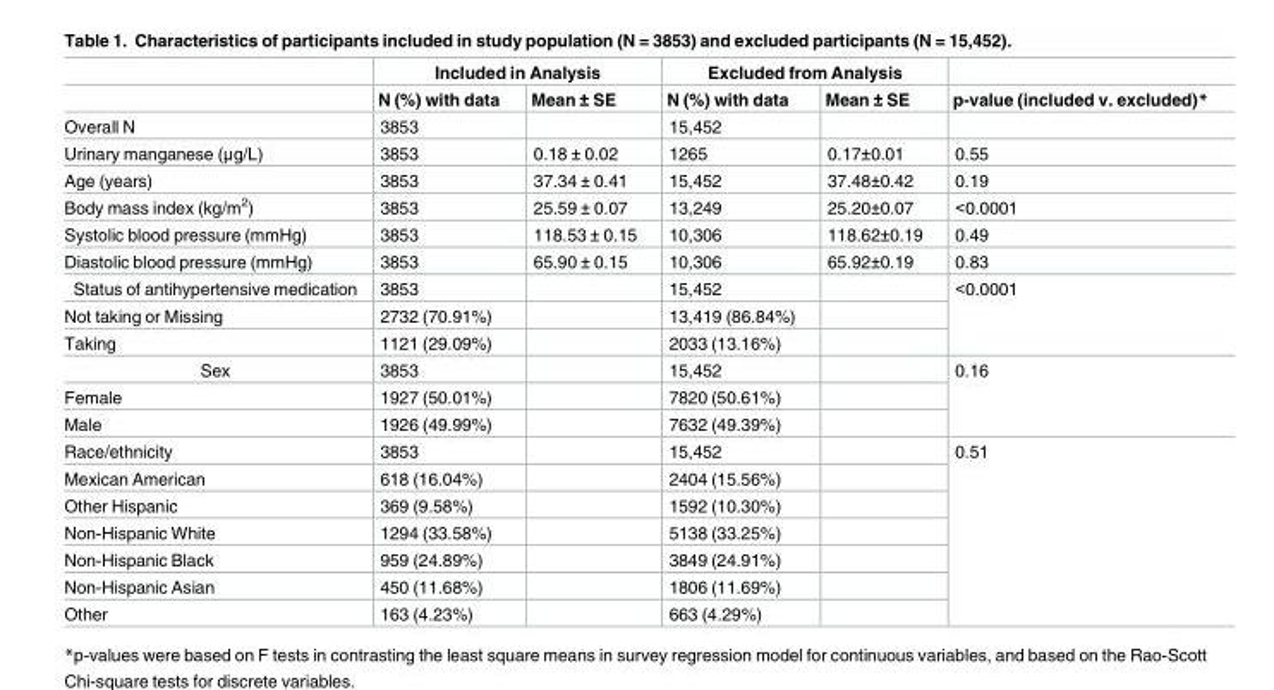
<table><thead><tr><td rowspan="2"></td><td colspan="2">Included in Analysis</td><td colspan="2">Excluded from Analysis</td><td rowspan="2">p-value (included v. excluded)*</td></tr><tr><td>N (%) with data</td><td>Mean ± SE</td><td>N (%) with data</td><td>Mean ± SE</td></tr></thead><tbody><tr><td>Overall N</td><td>3853</td><td></td><td>15,452</td><td></td><td></td></tr><tr><td>Urinary manganese (μg/L)</td><td>3853</td><td>0.18 ± 0.02</td><td>1265</td><td>0.17±0.01</td><td>0.55</td></tr><tr><td>Age (years)</td><td>3853</td><td>37.34 ± 0.41</td><td>15,452</td><td>37.48±0.42</td><td>0.19</td></tr><tr><td>Body mass index (kg/m<sup>2</sup>)</td><td>3853</td><td>25.59 ± 0.07</td><td>13,249</td><td>25.20±0.07</td><td>&lt;0.0001</td></tr><tr><td>Systolic blood pressure (mmHg)</td><td>3853</td><td>118.53 ± 0.15</td><td>10,306</td><td>118.62±0.19</td><td>0.49</td></tr><tr><td>Diastolic blood pressure (mmHg)</td><td>3853</td><td>65.90 ± 0.15</td><td>10,306</td><td>65.92±0.19</td><td>0.83</td></tr><tr><td>Status of antihypertensive medication</td><td>3853</td><td></td><td>15,452</td><td></td><td rowspan="3">&lt;0.0001</td></tr><tr><td>Not taking or Missing</td><td>2732 (70.91%)</td><td></td><td>13,419 (86.84%)</td><td></td></tr><tr><td>Taking</td><td>1121 (29.09%)</td><td></td><td>2033 (13.16%)</td><td></td></tr><tr><td>Sex</td><td>3853</td><td></td><td>15,452</td><td></td><td rowspan="3">0.16</td></tr><tr><td>Female</td><td>1927 (50.01%)</td><td></td><td>7820 (50.61%)</td><td></td></tr><tr><td>Male</td><td>1926 (49.99%)</td><td></td><td>7632 (49.39%)</td><td></td></tr><tr><td>Race/ethnicity</td><td>3853</td><td></td><td>15,452</td><td></td><td rowspan="7">0.51</td></tr><tr><td>Mexican American</td><td>618 (16.04%)</td><td></td><td>2404 (15.56%)</td><td></td></tr><tr><td>Other Hispanic</td><td>369 (9.58%)</td><td></td><td>1592 (10.30%)</td><td></td></tr><tr><td>Non-Hispanic White</td><td>1294 (33.58%)</td><td></td><td>5138 (33.25%)</td><td></td></tr><tr><td>Non-Hispanic Black</td><td>959 (24.89%)</td><td></td><td>3849 (24.91%)</td><td></td></tr><tr><td>Non-Hispanic Asian</td><td>450 (11.68%)</td><td></td><td>1806 (11.69%)</td><td></td></tr><tr><td>Other</td><td>163 (4.23%)</td><td></td><td>663 (4.29%)</td><td></td></tr></tbody></table>